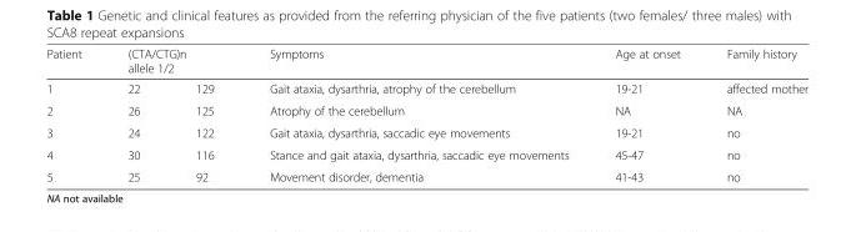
<table><thead><tr><td rowspan="2">Patient 1</td><td colspan="2">(CTA/CTG)n allele 1/2</td><td rowspan="2">Symptoms Gait ataxia, dysarthria, atrophy of the cerebellum</td><td rowspan="2">Age at onset 19-21</td><td rowspan="2">Family history affected mother</td></tr><tr><td>22</td><td>129</td></tr></thead><tbody><tr><td>2</td><td>26</td><td>125</td><td>Atrophy of the cerebellum</td><td>NA</td><td>NA</td></tr><tr><td>3</td><td>24</td><td>122</td><td>Gait ataxia, dysarthria, saccadic eye movements</td><td>19-21</td><td>no</td></tr><tr><td>4</td><td>30</td><td>116</td><td>Stance and gait ataxia, dysarthria, saccadic eye movements</td><td>45-47</td><td>no</td></tr><tr><td>5</td><td>25</td><td>92</td><td>Movement disorder, dementia</td><td>41-43</td><td>no</td></tr></tbody></table>